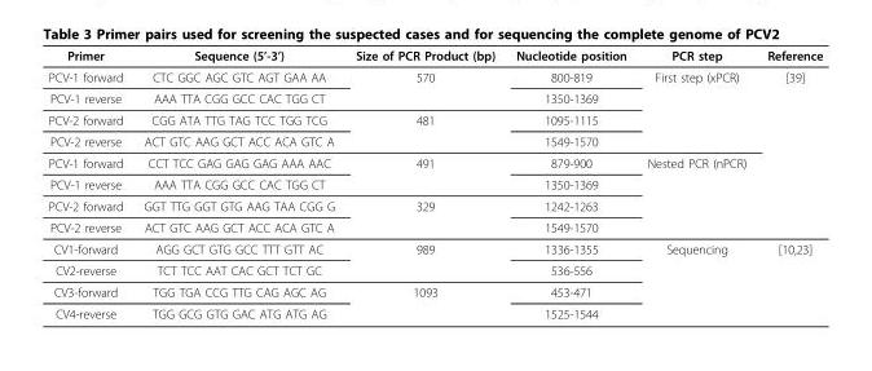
<table><thead><tr><td>Primer</td><td>Sequence (5’-3’)</td><td>Size of PCR Product (bp)</td><td>Nucleotide position</td><td>PCR step</td><td>Reference</td></tr></thead><tbody><tr><td>PCV-1 forward</td><td>CTC GGC AGC GTC AGT GAA AA</td><td>570</td><td>800-819</td><td>First step (xPCR)</td><td>[39]</td></tr><tr><td>PCV-1 reverse</td><td>AAA TTA CGG GCC CAC TGG CT</td><td></td><td>1350-1369</td><td></td><td></td></tr><tr><td>PCV-2 forward</td><td>CGG ATA TTG TAG TCC TGG TCG</td><td>481</td><td>1095-1115</td><td></td><td></td></tr><tr><td>PCV-2 reverse</td><td>ACT GTC AAG GCT ACC ACA GTC A</td><td></td><td>1549-1570</td><td></td><td></td></tr><tr><td>PCV-1 forward</td><td>CCT TCC GAG GAG GAG AAA AAC</td><td>491</td><td>879-900</td><td>Nested PCR (nPCR)</td><td></td></tr><tr><td>PCV-1 reverse</td><td>AAA TTA CGG GCC CAC TGG CT</td><td></td><td>1350-1369</td><td></td><td></td></tr><tr><td>PCV-2 forward</td><td>GGT TTG GGT GTG AAG TAA CGG G</td><td>329</td><td>1242-1263</td><td></td><td></td></tr><tr><td>PCV-2 reverse</td><td>ACT GTC AAG GCT ACC ACA GTC A</td><td></td><td>1549-1570</td><td></td><td></td></tr><tr><td>CV1-forward</td><td>AGG GCT GTG GCC TTT GTT AC</td><td>989</td><td>1336-1355</td><td>Sequencing</td><td>[10,23]</td></tr><tr><td>CV2-reverse</td><td>TCT TCC AAT CAC GCT TCT GC</td><td></td><td>536-556</td><td></td><td></td></tr><tr><td>CV3-forward</td><td>TGG TGA CCG TTG CAG AGC AG</td><td>1093</td><td>453-471</td><td></td><td></td></tr><tr><td>CV4-reverse</td><td>TGG GCG GTG GAC ATG ATG AG</td><td></td><td>1525-1544</td><td></td><td></td></tr></tbody></table>